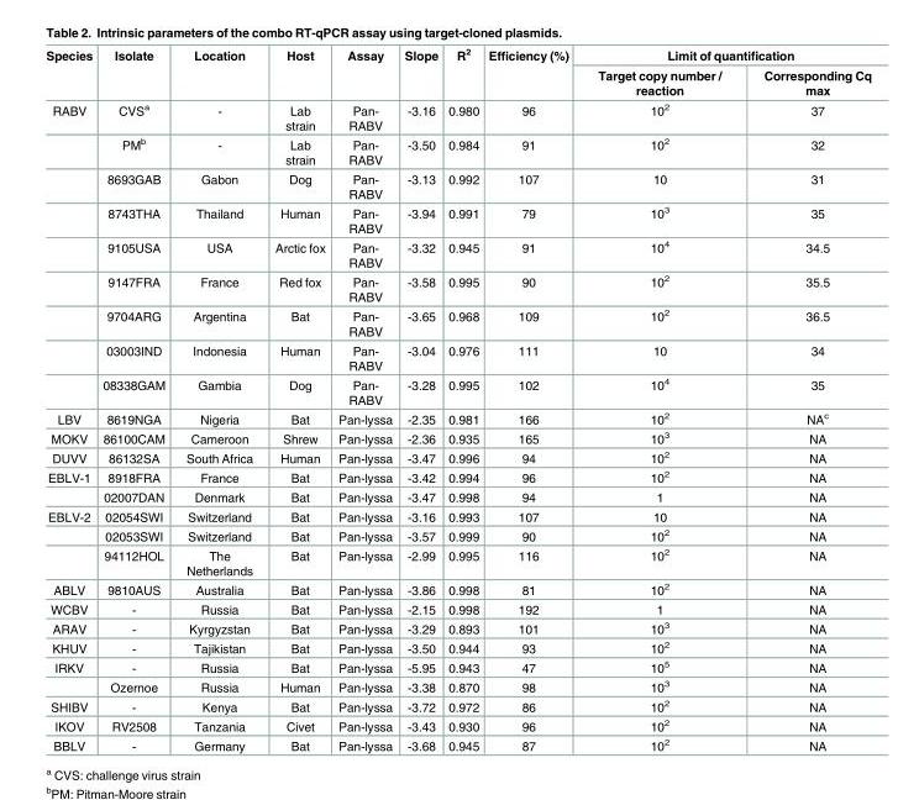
<table><thead><tr><td rowspan="2">Species</td><td rowspan="2">Isolate</td><td rowspan="2">Location</td><td rowspan="2">Host</td><td rowspan="2">Assay</td><td rowspan="2">Slope</td><td rowspan="2">R<sup>2</sup></td><td rowspan="2">Efficiency (%)</td><td colspan="2">Limit of quantification</td></tr><tr><td>Target copy number / reaction</td><td>Corresponding Cq max</td></tr></thead><tbody><tr><td rowspan="9">RABV</td><td>CVS<sup>a</sup></td><td>-</td><td>Lab strain</td><td>Pan- RABV</td><td>-3.16</td><td>0.980</td><td>96</td><td>10<sup>2</sup></td><td>37</td></tr><tr><td>PM<sup>b</sup></td><td>-</td><td>Lab strain</td><td>Pan- RABV</td><td>-3.50</td><td>0.984</td><td>91</td><td>10<sup>2</sup></td><td>32</td></tr><tr><td>8693GAB</td><td>Gabon</td><td>Dog</td><td>Pan- RABV</td><td>-3.13</td><td>0.992</td><td>107</td><td>10</td><td>31</td></tr><tr><td>8743THA</td><td>Thailand</td><td>Human</td><td>Pan- RABV</td><td>-3.94</td><td>0.991</td><td>79</td><td>10<sup>3</sup></td><td>35</td></tr><tr><td>9105USA</td><td>USA</td><td>Arctic fox</td><td>Pan- RABV</td><td>-3.32</td><td>0.945</td><td>91</td><td>10<sup>4</sup></td><td>34.5</td></tr><tr><td>9147FRA</td><td>France</td><td>Red fox</td><td>Pan- RABV</td><td>-3.58</td><td>0.995</td><td>90</td><td>10<sup>2</sup></td><td>35.5</td></tr><tr><td>9704ARG</td><td>Argentina</td><td>Bat</td><td>Pan- RABV</td><td>-3.65</td><td>0.968</td><td>109</td><td>10<sup>2</sup></td><td>36.5</td></tr><tr><td>03003IND</td><td>Indonesia</td><td>Human</td><td>Pan- RABV</td><td>-3.04</td><td>0.976</td><td>111</td><td>10</td><td>34</td></tr><tr><td>08338GAM</td><td>Gambia</td><td>Dog</td><td>Pan- RABV</td><td>-3.28</td><td>0.995</td><td>102</td><td>10<sup>4</sup></td><td>35</td></tr><tr><td>LBV</td><td>8619NGA</td><td>Nigeria</td><td>Bat</td><td>Pan-lyssa</td><td>-2.35</td><td>0.981</td><td>166</td><td>10<sup>2</sup></td><td>NA<sup>c</sup></td></tr><tr><td>MOKV</td><td>86100CAM</td><td>Cameroon</td><td>Shrew</td><td>Pan-lyssa</td><td>-2.36</td><td>0.935</td><td>165</td><td>10<sup>3</sup></td><td>NA</td></tr><tr><td>DUVV</td><td>86132SA</td><td>South Africa</td><td>Human</td><td>Pan-lyssa</td><td>-3.47</td><td>0.996</td><td>94</td><td>10<sup>2</sup></td><td>NA</td></tr><tr><td rowspan="2">EBLV-1</td><td>8918FRA</td><td>France</td><td>Bat</td><td>Pan-lyssa</td><td>-3.42</td><td>0.994</td><td>96</td><td>10<sup>2</sup></td><td>NA</td></tr><tr><td>02007DAN</td><td>Denmark</td><td>Bat</td><td>Pan-lyssa</td><td>-3.47</td><td>0.998</td><td>94</td><td>1</td><td>NA</td></tr><tr><td rowspan="3">EBLV-2</td><td>02054SWI</td><td>Switzerland</td><td>Bat</td><td>Pan-lyssa</td><td>-3.16</td><td>0.993</td><td>107</td><td>10</td><td>NA</td></tr><tr><td>02053SWI</td><td>Switzerland</td><td>Bat</td><td>Pan-lyssa</td><td>-3.57</td><td>0.999</td><td>90</td><td>10<sup>2</sup></td><td>NA</td></tr><tr><td>94112HOL</td><td>The Netherlands</td><td>Bat</td><td>Pan-lyssa</td><td>-2.99</td><td>0.995</td><td>116</td><td>10<sup>2</sup></td><td>NA</td></tr><tr><td>ABLV</td><td>9810AUS</td><td>Australia</td><td>Bat</td><td>Pan-lyssa</td><td>-3.86</td><td>0.998</td><td>81</td><td>10<sup>2</sup></td><td>NA</td></tr><tr><td>WCBV</td><td>-</td><td>Russia</td><td>Bat</td><td>Pan-lyssa</td><td>-2.15</td><td>0.998</td><td>192</td><td>1</td><td>NA</td></tr><tr><td>ARAV</td><td>-</td><td>Kyrgyzstan</td><td>Bat</td><td>Pan-lyssa</td><td>-3.29</td><td>0.893</td><td>101</td><td>10<sup>3</sup></td><td>NA</td></tr><tr><td>KHUV</td><td>-</td><td>Tajikistan</td><td>Bat</td><td>Pan-lyssa</td><td>-3.50</td><td>0.944</td><td>93</td><td>10<sup>2</sup></td><td>NA</td></tr><tr><td rowspan="2">IRKV</td><td>-</td><td>Russia</td><td>Bat</td><td>Pan-lyssa</td><td>-5.95</td><td>0.943</td><td>47</td><td>10<sup>5</sup></td><td>NA</td></tr><tr><td>Ozernoe</td><td>Russia</td><td>Human</td><td>Pan-lyssa</td><td>-3.38</td><td>0.870</td><td>98</td><td>10<sup>3</sup></td><td>NA</td></tr><tr><td>SHIBV</td><td>-</td><td>Kenya</td><td>Bat</td><td>Pan-lyssa</td><td>-3.72</td><td>0.972</td><td>86</td><td>10<sup>2</sup></td><td>NA</td></tr><tr><td>IKOV</td><td>RV2508</td><td>Tanzania</td><td>Civet</td><td>Pan-lyssa</td><td>-3.43</td><td>0.930</td><td>96</td><td>10<sup>2</sup></td><td>NA</td></tr><tr><td>BBLV</td><td>-</td><td>Germany</td><td>Bat</td><td>Pan-lyssa</td><td>-3.68</td><td>0.945</td><td>87</td><td>10<sup>2</sup></td><td>NA</td></tr></tbody></table>